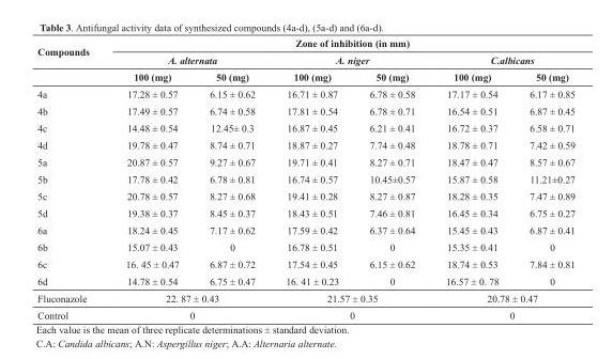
<table><thead><tr><td rowspan="3">Compounds</td><td colspan="6">Zone of inhibition (in mm)</td></tr><tr><td colspan="2">A. alternata</td><td colspan="2">A. niger</td><td colspan="2">C.albicans</td></tr><tr><td>100 (mg)</td><td>50 (mg)</td><td>100 (mg)</td><td>50 (mg)</td><td>100 (mg)</td><td>50 (mg)</td></tr></thead><tbody><tr><td>4a</td><td>17.28 ± 0.57</td><td>6.15 ± 0.62</td><td>16.71 ± 0.87</td><td>6.78 ± 0.58</td><td>17.17 ± 0.54</td><td>6.17 ± 0.85</td></tr><tr><td>4b</td><td>17.49 ± 0.57</td><td>6.74 ± 0.58</td><td>17.81 ± 0.54</td><td>6.78 ± 0.71</td><td>16.54 ± 0.51</td><td>6.87 ± 0.45</td></tr><tr><td>4c</td><td>14.48 ± 0.54</td><td>12.45± 0.3</td><td>16.87 ± 0.45</td><td>6.21 ± 0.41</td><td>16.72 ± 0.37</td><td>6.58 ± 0.71</td></tr><tr><td>4d</td><td>19.78 ± 0.47</td><td>8.74 ± 0.71</td><td>18.87 ± 0.27</td><td>7.74 ± 0.48</td><td>18.78 ± 0.71</td><td>7.42 ± 0.59</td></tr><tr><td>5a</td><td>20.87 ± 0.57</td><td>9.27 ± 0.67</td><td>19.71 ± 0.41</td><td>8.27 ± 0.71</td><td>18.47 ± 0.47</td><td>8.57 ± 0.67</td></tr><tr><td>5b</td><td>17.78 ± 0.42</td><td>6.78 ± 0.81</td><td>16.74 ± 0.57</td><td>10.45±0.57</td><td>15.87 ± 0.58</td><td>11.21±0.27</td></tr><tr><td>5c</td><td>20.78 ± 0.57</td><td>8.27 ± 0.68</td><td>19.41 ± 0.28</td><td>8.27 ± 0.87</td><td>18.28 ± 0.35</td><td>7.47 ± 0.89</td></tr><tr><td>5d</td><td>19.38 ± 0.37</td><td>8.45 ± 0.37</td><td>18.43 ± 0.51</td><td>7.46 ± 0.81</td><td>16.45 ± 0.34</td><td>6.75 ± 0.27</td></tr><tr><td>6a</td><td>18.24 ± 0.45</td><td>7.17 ± 0.62</td><td>17.59 ± 0.42</td><td>6.37 ± 0.64</td><td>15.45 ± 0.43</td><td>6.87 ± 0.41</td></tr><tr><td>6b</td><td>15.07 ± 0.43</td><td>0</td><td>16.78 ± 0.51</td><td>0</td><td>15.35 ± 0.41</td><td>0</td></tr><tr><td>6c</td><td>16. 45 ± 0.47</td><td>6.87 ± 0.72</td><td>17.54 ± 0.45</td><td>6.15 ± 0.62</td><td>18.74 ± 0.53</td><td>7.84 ± 0.81</td></tr><tr><td>6d</td><td>14.78 ± 0.54</td><td>6.75 ± 0.47</td><td>16. 41 ± 0.23</td><td>0</td><td>16.57 ± 0. 78</td><td>0</td></tr><tr><td>Fluconazole</td><td colspan="2">22. 87 ± 0.43</td><td colspan="2">21.57 ± 0.35</td><td colspan="2">20.78 ± 0.47</td></tr><tr><td>Control</td><td colspan="2">0</td><td colspan="2">0</td><td colspan="2">0</td></tr></tbody></table>